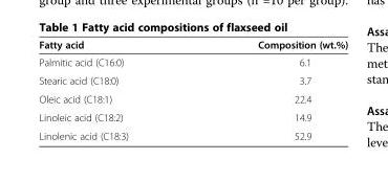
<table><thead><tr><td>Fatty acid</td><td>Composition (wt.%)</td></tr></thead><tbody><tr><td>Palmitic acid (C16:0)</td><td>6.1</td></tr><tr><td>Stearic acid (C18:0)</td><td>3.7</td></tr><tr><td>Oleic acid (C18:1)</td><td>22.4</td></tr><tr><td>Linoleic acid (C18:2)</td><td>14.9</td></tr><tr><td>Linolenic acid (C18:3)</td><td>52.9</td></tr></tbody></table>